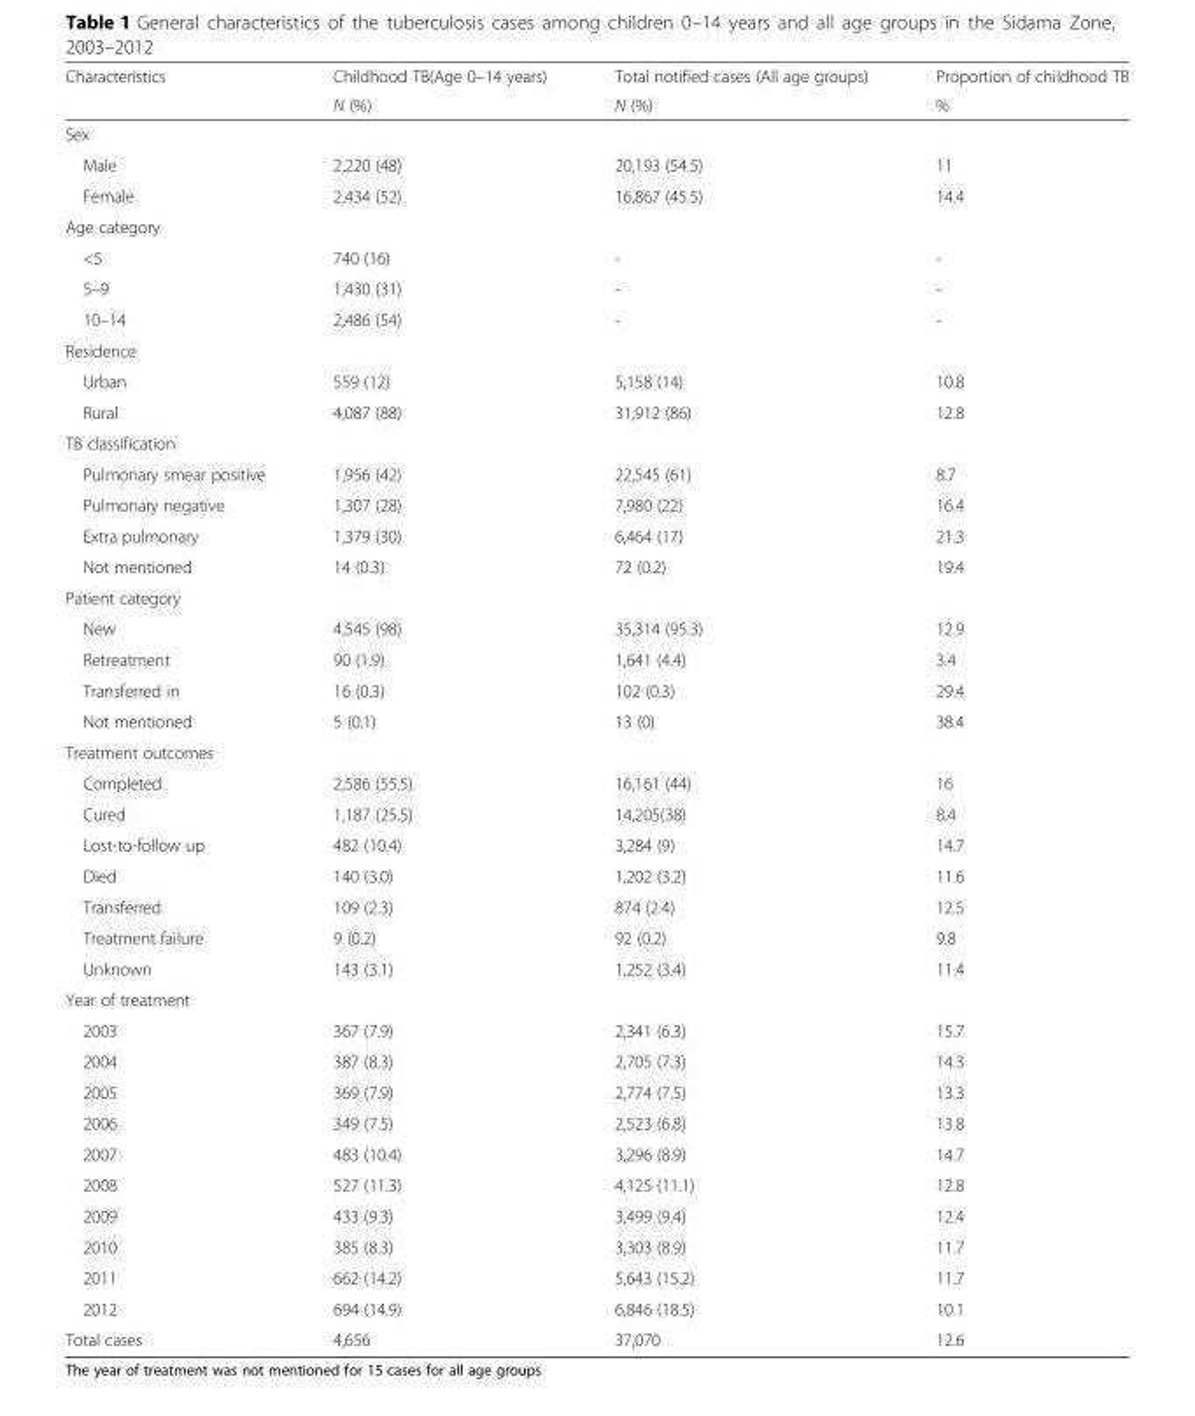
<table><thead><tr><td rowspan="2">Characteristics</td><td rowspan="2">Childhood TB(Age 0–14 years) N (%)</td><td rowspan="2">Total notified cases (All age groups) N (%)</td><td rowspan="2">Proportion of childhood TB %</td></tr><tr></tr></thead><tbody><tr><td colspan="4">Sex</td></tr><tr><td>Male</td><td>2,220 (48)</td><td>20,193 (54.5)</td><td>11</td></tr><tr><td>Female</td><td>2,434 (52)</td><td>16,867 (45.5)</td><td>14.4</td></tr><tr><td colspan="4">Age category</td></tr><tr><td>&lt;5</td><td>740 (16)</td><td>-</td><td>-</td></tr><tr><td>5–9</td><td>1,430 (31)</td><td>-</td><td>-</td></tr><tr><td>10–14</td><td>2,486 (54)</td><td>-</td><td>-</td></tr><tr><td colspan="4">Residence</td></tr><tr><td>Urban</td><td>559 (12)</td><td>5,158 (14)</td><td>10.8</td></tr><tr><td>Rural</td><td>4,087 (88)</td><td>31,912 (86)</td><td>12.8</td></tr><tr><td colspan="4">TB classification</td></tr><tr><td>Pulmonary smear positive</td><td>1,956 (42)</td><td>22,545 (61)</td><td>8.7</td></tr><tr><td>Pulmonary negative</td><td>1,307 (28)</td><td>7,980 (22)</td><td>16.4</td></tr><tr><td>Extra pulmonary</td><td>1,379 (30)</td><td>6,464 (17)</td><td>21.3</td></tr><tr><td>Not mentioned</td><td>14 (0.3)</td><td>72 (0.2)</td><td>19.4</td></tr><tr><td colspan="4">Patient category</td></tr><tr><td>New</td><td>4,545 (98)</td><td>35,314 (95.3)</td><td>12.9</td></tr><tr><td>Retreatment</td><td>90 (1.9)</td><td>1,641 (4.4)</td><td>3.4</td></tr><tr><td>Transferred in</td><td>16 (0.3)</td><td>102 (0.3)</td><td>29.4</td></tr><tr><td>Not mentioned</td><td>5 (0.1)</td><td>13 (0)</td><td>38.4</td></tr><tr><td colspan="4">Treatment outcomes</td></tr><tr><td>Completed</td><td>2,586 (55.5)</td><td>16,161 (44)</td><td>16</td></tr><tr><td>Cured</td><td>1,187 (25.5)</td><td>14,205(38)</td><td>8.4</td></tr><tr><td>Lost-to-follow up</td><td>482 (10.4)</td><td>3,284 (9)</td><td>14.7</td></tr><tr><td>Died</td><td>140 (3.0)</td><td>1,202 (3.2)</td><td>11.6</td></tr><tr><td>Transferred</td><td>109 (2.3)</td><td>874 (2.4)</td><td>12.5</td></tr><tr><td>Treatment failure</td><td>9 (0.2)</td><td>92 (0.2)</td><td>9.8</td></tr><tr><td>Unknown</td><td>143 (3.1)</td><td>1,252 (3.4)</td><td>11.4</td></tr><tr><td colspan="4">Year of treatment</td></tr><tr><td>2003</td><td>367 (7.9)</td><td>2,341 (6.3)</td><td>15.7</td></tr><tr><td>2004</td><td>387 (8.3)</td><td>2,705 (7.3)</td><td>14.3</td></tr><tr><td>2005</td><td>369 (7.9)</td><td>2,774 (7.5)</td><td>13.3</td></tr><tr><td>2006</td><td>349 (7.5)</td><td>2,523 (6.8)</td><td>13.8</td></tr><tr><td>2007</td><td>483 (10.4)</td><td>3,296 (8.9)</td><td>14.7</td></tr><tr><td>2008</td><td>527 (11.3)</td><td>4,125 (11.1)</td><td>12.8</td></tr><tr><td>2009</td><td>433 (9.3)</td><td>3,499 (9.4)</td><td>12.4</td></tr><tr><td>2010</td><td>385 (8.3)</td><td>3,303 (8.9)</td><td>11.7</td></tr><tr><td>2011</td><td>662 (14.2)</td><td>5,643 (15.2)</td><td>11.7</td></tr><tr><td>2012</td><td>694 (14.9)</td><td>6,846 (18.5)</td><td>10.1</td></tr><tr><td>Total cases</td><td>4,656</td><td>37,070</td><td>12.6</td></tr></tbody></table>